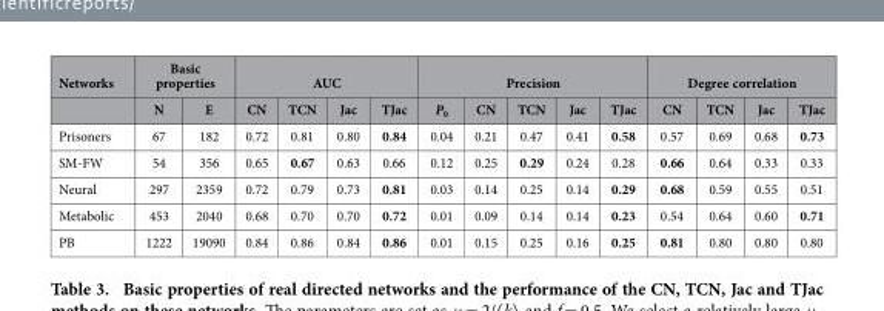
<table><thead><tr><td rowspan="2">Networks</td><td colspan="2">Basic properties</td><td colspan="4">AUC</td><td colspan="5">Precision</td><td colspan="4">Degree correlation</td></tr><tr><td>N</td><td>E</td><td>CN</td><td>TCN</td><td>Jac</td><td>TJac</td><td>P<sub>0</sub></td><td>CN</td><td>TCN</td><td>Jac</td><td>TJac</td><td>CN</td><td>TCN</td><td>Jac</td><td>TJac</td></tr></thead><tbody><tr><td>Prisoners</td><td>67</td><td>182</td><td>0.72</td><td>0.81</td><td>0.80</td><td>0.84</td><td>0.04</td><td>0.21</td><td>0.47</td><td>0.41</td><td>0.58</td><td>0.57</td><td>0.69</td><td>0.68</td><td>0.73</td></tr><tr><td>SM-FW</td><td>54</td><td>356</td><td>0.65</td><td>0.67</td><td>0.63</td><td>0.66</td><td>0.12</td><td>0.25</td><td>0.29</td><td>0.24</td><td>0.28</td><td>0.66</td><td>0.64</td><td>0.33</td><td>0.33</td></tr><tr><td>Neural</td><td>297</td><td>2359</td><td>0.72</td><td>0.79</td><td>0.73</td><td>0.81</td><td>0.03</td><td>0.14</td><td>0.25</td><td>0.14</td><td>0.29</td><td>0.68</td><td>0.59</td><td>0.55</td><td>0.51</td></tr><tr><td>Metabolic</td><td>453</td><td>2040</td><td>0.68</td><td>0.70</td><td>0.70</td><td>0.72</td><td>0.01</td><td>0.09</td><td>0.14</td><td>0.14</td><td>0.23</td><td>0.54</td><td>0.64</td><td>0.60</td><td>0.71</td></tr><tr><td>PB</td><td>1222</td><td>19090</td><td>0.84</td><td>0.86</td><td>0.84</td><td>0.86</td><td>0.01</td><td>0.15</td><td>0.25</td><td>0.16</td><td>0.25</td><td>0.81</td><td>0.80</td><td>0.80</td><td>0.80</td></tr></tbody></table>